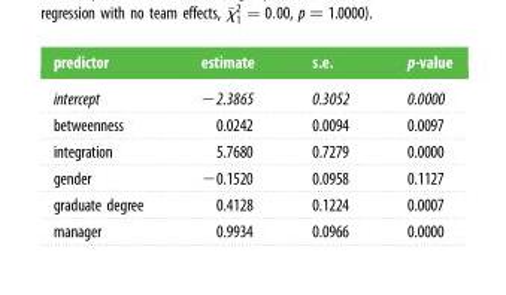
<table><thead><tr><td>predictor</td><td>estimate</td><td>s.e.</td><td>p-value</td></tr></thead><tbody><tr><td>intercept</td><td>−2.3865</td><td>0.3052</td><td>0.0000</td></tr><tr><td>betweenness</td><td>0.0242</td><td>0.0094</td><td>0.0097</td></tr><tr><td>integration</td><td>5.7680</td><td>0.7279</td><td>0.0000</td></tr><tr><td>gender</td><td>−0.1520</td><td>0.0958</td><td>0.1127</td></tr><tr><td>graduate degree</td><td>0.4128</td><td>0.1224</td><td>0.0007</td></tr><tr><td>manager</td><td>0.9934</td><td>0.0966</td><td>0.0000</td></tr></tbody></table>